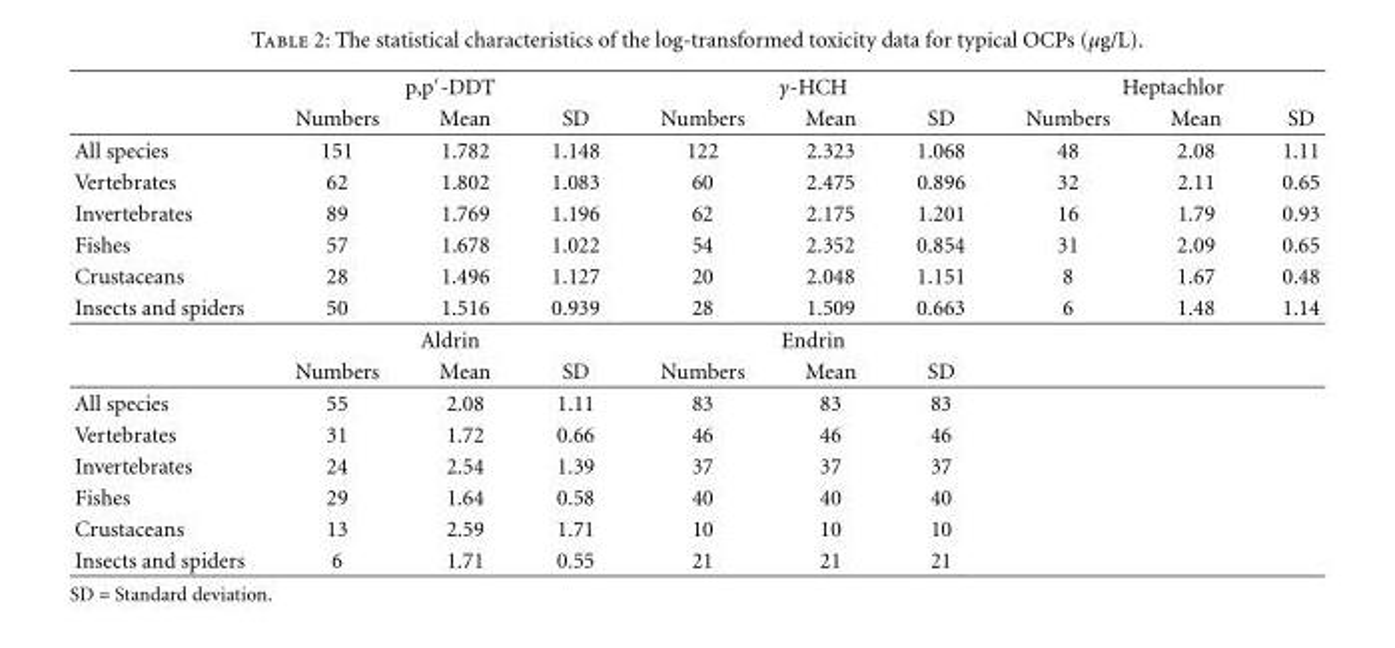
<table><thead><tr><td rowspan="2"></td><td colspan="3">p,p′-DDT</td><td colspan="3">γ-HCH</td><td colspan="3">Heptachlor</td></tr><tr><td>Numbers</td><td>Mean</td><td>SD</td><td>Numbers</td><td>Mean</td><td>SD</td><td>Numbers</td><td>Mean</td><td>SD</td></tr></thead><tbody><tr><td>All species</td><td>151</td><td>1.782</td><td>1.148</td><td>122</td><td>2.323</td><td>1.068</td><td>48</td><td>2.08</td><td>1.11</td></tr><tr><td>Vertebrates</td><td>62</td><td>1.802</td><td>1.083</td><td>60</td><td>2.475</td><td>0.896</td><td>32</td><td>2.11</td><td>0.65</td></tr><tr><td>Invertebrates</td><td>89</td><td>1.769</td><td>1.196</td><td>62</td><td>2.175</td><td>1.201</td><td>16</td><td>1.79</td><td>0.93</td></tr><tr><td>Fishes</td><td>57</td><td>1.678</td><td>1.022</td><td>54</td><td>2.352</td><td>0.854</td><td>31</td><td>2.09</td><td>0.65</td></tr><tr><td>Crustaceans</td><td>28</td><td>1.496</td><td>1.127</td><td>20</td><td>2.048</td><td>1.151</td><td>8</td><td>1.67</td><td>0.48</td></tr><tr><td rowspan="3">Insects and spiders</td><td>50</td><td>1.516</td><td>0.939</td><td>28</td><td>1.509</td><td>0.663</td><td>6</td><td>1.48</td><td>1.14</td></tr><tr><td colspan="3">Aldrin</td><td colspan="3">Endrin</td><td></td><td></td><td></td></tr><tr><td>Numbers</td><td>Mean</td><td>SD</td><td>Numbers</td><td>Mean</td><td>SD</td><td></td><td></td><td></td></tr><tr><td>All species</td><td>55</td><td>2.08</td><td>1.11</td><td>83</td><td>83</td><td>83</td><td></td><td></td><td></td></tr><tr><td>Vertebrates</td><td>31</td><td>1.72</td><td>0.66</td><td>46</td><td>46</td><td>46</td><td></td><td></td><td></td></tr><tr><td>Invertebrates</td><td>24</td><td>2.54</td><td>1.39</td><td>37</td><td>37</td><td>37</td><td></td><td></td><td></td></tr><tr><td>Fishes</td><td>29</td><td>1.64</td><td>0.58</td><td>40</td><td>40</td><td>40</td><td></td><td></td><td></td></tr><tr><td>Crustaceans</td><td>13</td><td>2.59</td><td>1.71</td><td>10</td><td>10</td><td>10</td><td></td><td></td><td></td></tr><tr><td>Insects and spiders</td><td>6</td><td>1.71</td><td>0.55</td><td>21</td><td>21</td><td>21</td><td></td><td></td><td></td></tr></tbody></table>